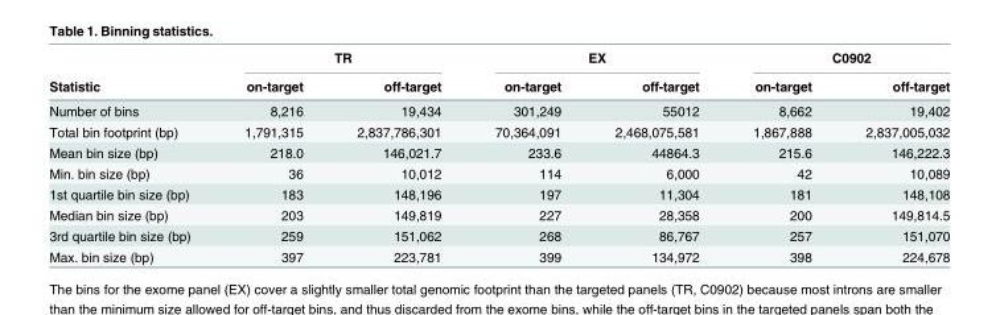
<table><thead><tr><td rowspan="2">Statistic</td><td colspan="2">TR</td><td colspan="2">EX</td><td colspan="2">C0902</td></tr><tr><td>on-target</td><td>off-target</td><td>on-target</td><td>off-target</td><td>on-target</td><td>off-target</td></tr></thead><tbody><tr><td>Number of bins</td><td>8,216</td><td>19,434</td><td>301,249</td><td>55012</td><td>8,662</td><td>19,402</td></tr><tr><td>Total bin footprint (bp)</td><td>1,791,315</td><td>2,837,786,301</td><td>70,364,091</td><td>2,468,075,581</td><td>1,867,888</td><td>2,837,005,032</td></tr><tr><td>Mean bin size (bp)</td><td>218.0</td><td>146,021.7</td><td>233.6</td><td>44864.3</td><td>215.6</td><td>146,222.3</td></tr><tr><td>Min. bin size (bp)</td><td>36</td><td>10,012</td><td>114</td><td>6,000</td><td>42</td><td>10,089</td></tr><tr><td>1st quartile bin size (bp)</td><td>183</td><td>148,196</td><td>197</td><td>11,304</td><td>181</td><td>148,108</td></tr><tr><td>Median bin size (bp)</td><td>203</td><td>149,819</td><td>227</td><td>28,358</td><td>200</td><td>149,814.5</td></tr><tr><td>3rd quartile bin size (bp)</td><td>259</td><td>151,062</td><td>268</td><td>86,767</td><td>257</td><td>151,070</td></tr><tr><td>Max. bin size (bp)</td><td>397</td><td>223,781</td><td>399</td><td>134,972</td><td>398</td><td>224,678</td></tr></tbody></table>